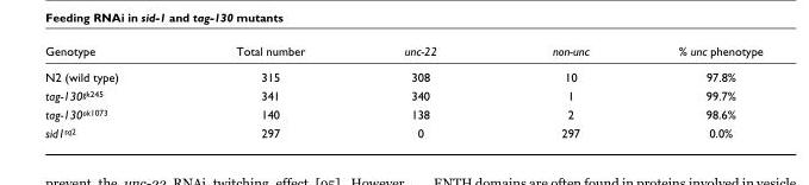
<table><thead><tr><td>Genotype</td><td>Total number</td><td>unc-22</td><td>non-unc</td><td>% unc phenotype</td></tr></thead><tbody><tr><td>N2 (wild type)</td><td>315</td><td>308</td><td>10</td><td>97.8%</td></tr><tr><td>tag-130<sup>gk245</sup></td><td>341</td><td>340</td><td>1</td><td>99.7%</td></tr><tr><td>tag-130<sup>ok1073</sup></td><td>140</td><td>138</td><td>2</td><td>98.6%</td></tr><tr><td>sid1<sup>sq2</sup></td><td>297</td><td>0</td><td>297</td><td>0.0%</td></tr></tbody></table>